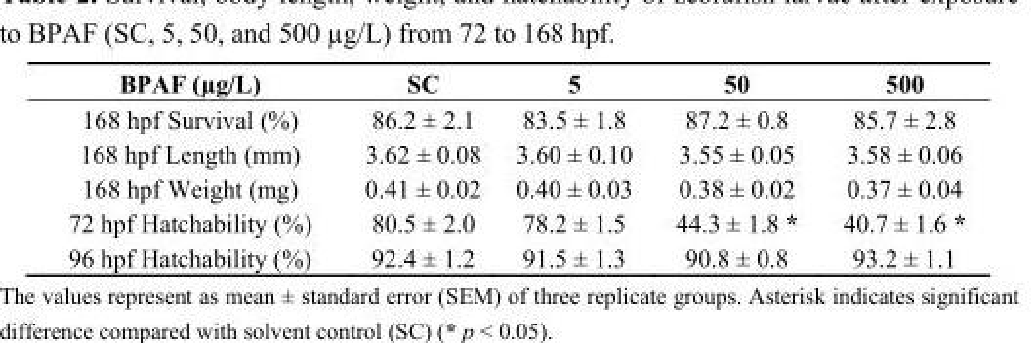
<table><thead><tr><td>BPAF (µg/L)</td><td>SC</td><td>5</td><td>50</td><td>500</td></tr></thead><tbody><tr><td>168 hpf Survival (%)</td><td>86.2 ± 2.1</td><td>83.5 ± 1.8</td><td>87.2 ± 0.8</td><td>85.7 ± 2.8</td></tr><tr><td>168 hpf Length (mm)</td><td>3.62 ± 0.08</td><td>3.60 ± 0.10</td><td>3.55 ± 0.05</td><td>3.58 ± 0.06</td></tr><tr><td>168 hpf Weight (mg)</td><td>0.41 ± 0.02</td><td>0.40 ± 0.03</td><td>0.38 ± 0.02</td><td>0.37 ± 0.04</td></tr><tr><td>72 hpf Hatchability (%)</td><td>80.5 ± 2.0</td><td>78.2 ± 1.5</td><td>44.3 ± 1.8 *</td><td>40.7 ± 1.6 *</td></tr><tr><td>96 hpf Hatchability (%)</td><td>92.4 ± 1.2</td><td>91.5 ± 1.3</td><td>90.8 ± 0.8</td><td>93.2 ± 1.1</td></tr></tbody></table>